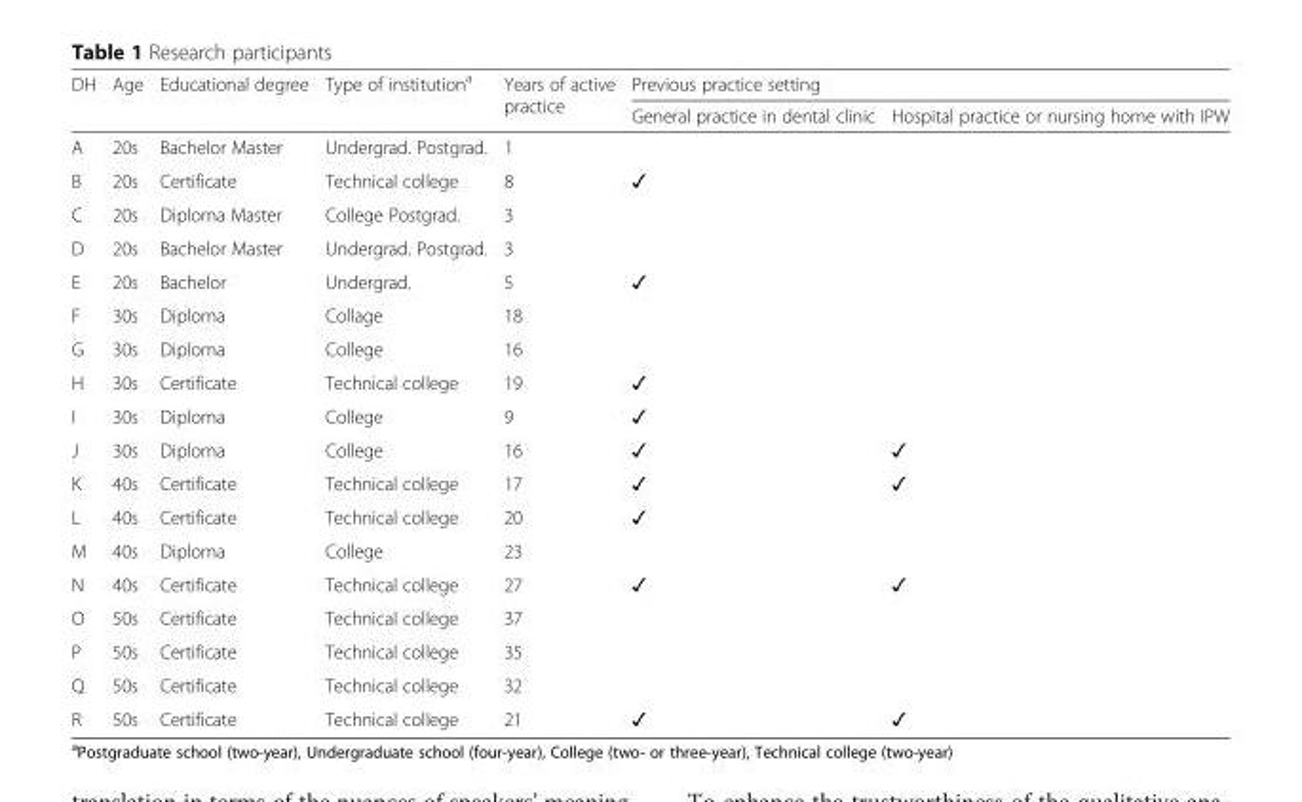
<table><thead><tr><td rowspan="2">DH</td><td rowspan="2">Age</td><td rowspan="2">Educational degree</td><td rowspan="2">Type of institution<sup>a</sup></td><td rowspan="2">Years of active practice</td><td colspan="2">Previous practice setting</td></tr><tr><td>General practice in dental clinic</td><td>Hospital practice or nursing home with IPW</td></tr></thead><tbody><tr><td>A</td><td>20s</td><td>Bachelor Master</td><td>Undergrad. Postgrad.</td><td>1</td><td></td><td></td></tr><tr><td>B</td><td>20s</td><td>Certificate</td><td>Technical college</td><td>8</td><td>✓</td><td></td></tr><tr><td>C</td><td>20s</td><td>Diploma Master</td><td>College Postgrad.</td><td>3</td><td></td><td></td></tr><tr><td>D</td><td>20s</td><td>Bachelor Master</td><td>Undergrad. Postgrad.</td><td>3</td><td></td><td></td></tr><tr><td>E</td><td>20s</td><td>Bachelor</td><td>Undergrad.</td><td>5</td><td>✓</td><td></td></tr><tr><td>F</td><td>30s</td><td>Diploma</td><td>Collage</td><td>18</td><td></td><td></td></tr><tr><td>G</td><td>30s</td><td>Diploma</td><td>College</td><td>16</td><td></td><td></td></tr><tr><td>H</td><td>30s</td><td>Certificate</td><td>Technical college</td><td>19</td><td>✓</td><td></td></tr><tr><td>I</td><td>30s</td><td>Diploma</td><td>College</td><td>9</td><td>✓</td><td></td></tr><tr><td>J</td><td>30s</td><td>Diploma</td><td>College</td><td>16</td><td>✓</td><td>✓</td></tr><tr><td>K</td><td>40s</td><td>Certificate</td><td>Technical college</td><td>17</td><td>✓</td><td>✓</td></tr><tr><td>L</td><td>40s</td><td>Certificate</td><td>Technical college</td><td>20</td><td>✓</td><td></td></tr><tr><td>M</td><td>40s</td><td>Diploma</td><td>College</td><td>23</td><td></td><td></td></tr><tr><td>N</td><td>40s</td><td>Certificate</td><td>Technical college</td><td>27</td><td>✓</td><td>✓</td></tr><tr><td>O</td><td>50s</td><td>Certificate</td><td>Technical college</td><td>37</td><td></td><td></td></tr><tr><td>P</td><td>50s</td><td>Certificate</td><td>Technical college</td><td>35</td><td></td><td></td></tr><tr><td>Q</td><td>50s</td><td>Certificate</td><td>Technical college</td><td>32</td><td></td><td></td></tr><tr><td>R</td><td>50s</td><td>Certificate</td><td>Technical college</td><td>21</td><td>✓</td><td>✓</td></tr></tbody></table>